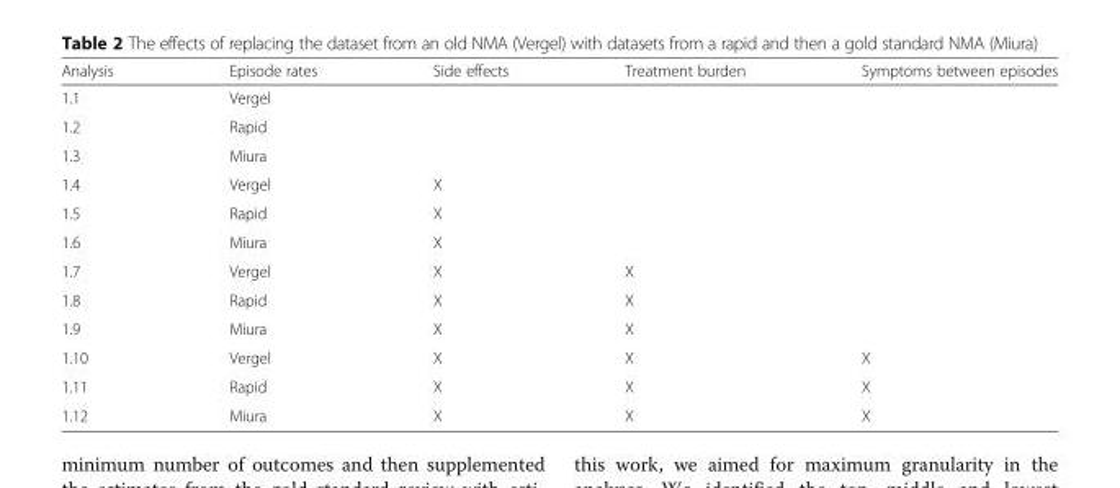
<table><thead><tr><td>Analysis</td><td>Episode rates</td><td>Side effects</td><td>Treatment burden</td><td>Symptoms between episodes</td></tr></thead><tbody><tr><td>1.1</td><td>Vergel</td><td></td><td></td><td></td></tr><tr><td>1.2</td><td>Rapid</td><td></td><td></td><td></td></tr><tr><td>1.3</td><td>Miura</td><td></td><td></td><td></td></tr><tr><td>1.4</td><td>Vergel</td><td>X</td><td></td><td></td></tr><tr><td>1.5</td><td>Rapid</td><td>X</td><td></td><td></td></tr><tr><td>1.6</td><td>Miura</td><td>X</td><td></td><td></td></tr><tr><td>1.7</td><td>Vergel</td><td>X</td><td>X</td><td></td></tr><tr><td>1.8</td><td>Rapid</td><td>X</td><td>X</td><td></td></tr><tr><td>1.9</td><td>Miura</td><td>X</td><td>X</td><td></td></tr><tr><td>1.10</td><td>Vergel</td><td>X</td><td>X</td><td>X</td></tr><tr><td>1.11</td><td>Rapid</td><td>X</td><td>X</td><td>X</td></tr><tr><td>1.12</td><td>Miura</td><td>X</td><td>X</td><td>X</td></tr></tbody></table>